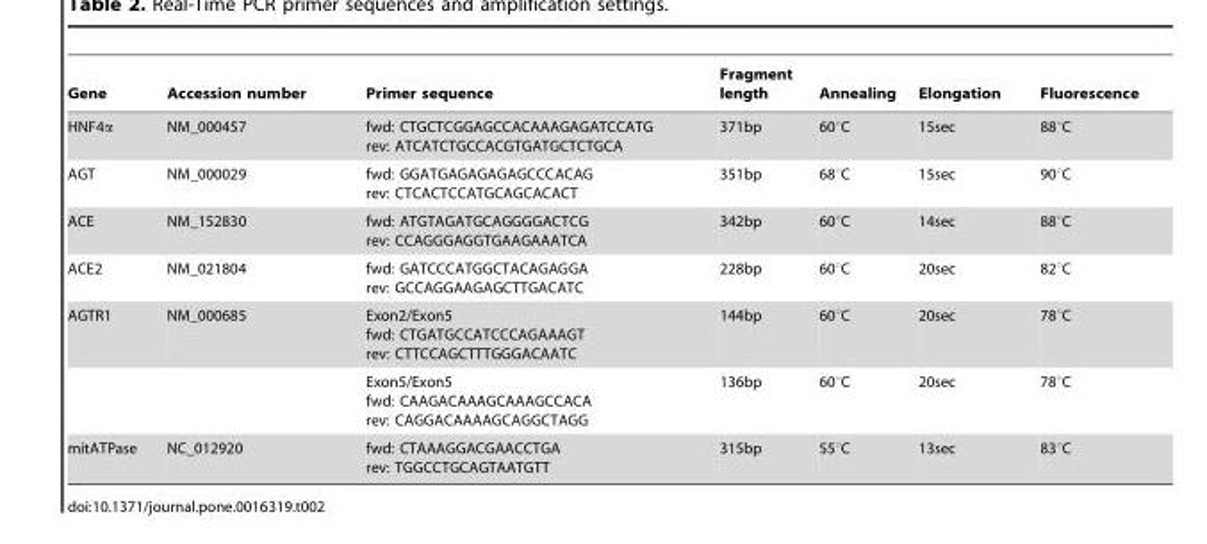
<table><thead><tr><td>Gene</td><td>Accession number</td><td>Primer sequence</td><td>Fragment length</td><td>Annealing</td><td>Elongation</td><td>Fluorescence</td></tr></thead><tbody><tr><td>HNF4α</td><td>NM_000457</td><td>fwd: CTGCTCGGAGCCACAAAGAGATCCATG rev: ATCATCTGCCACGTGATGCTCTGCA</td><td>371bp</td><td>60°C</td><td>15sec</td><td>88°C</td></tr><tr><td>AGT</td><td>NM_000029</td><td>fwd: GGATGAGAGAGAGCCCACAG rev: CTCACTCCATGCAGCACACT</td><td>351bp</td><td>68°C</td><td>15sec</td><td>90°C</td></tr><tr><td>ACE</td><td>NM_152830</td><td>fwd: ATGTAGATGCAGGGGACTCG rev: CCAGGGAGGTGAAGAAATCA</td><td>342bp</td><td>60°C</td><td>14sec</td><td>88°C</td></tr><tr><td>ACE2</td><td>NM_021804</td><td>fwd: GATCCCATGGCTACAGAGGA rev: GCCAGGAAGAGCTTGACATC</td><td>228bp</td><td>60°C</td><td>20sec</td><td>82°C</td></tr><tr><td rowspan="2">AGTR1</td><td>NM_000685</td><td>Exon2/Exon5 fwd: CTGATGCCATCCCAGAAAGT rev: CTTCCAGCTTTGGGACAATC</td><td>144bp</td><td>60°C</td><td>20sec</td><td>78°C</td></tr><tr><td></td><td>Exon5/Exon5 fwd: CAAGACAAAGCAAAGCCACA rev: CAGGACAAAAGCAGGCTAGG</td><td>136bp</td><td>60°C</td><td>20sec</td><td>78°C</td></tr><tr><td>mitATPase</td><td>NC_012920</td><td>fwd: CTAAAGGACGAACCTGA rev: TGGCCTGCAGTAATGTT</td><td>315bp</td><td>55°C</td><td>13sec</td><td>83°C</td></tr></tbody></table>